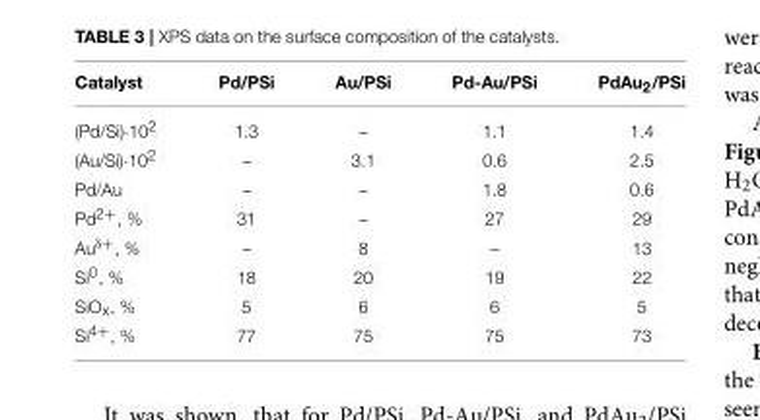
<table><thead><tr><td>Catalyst</td><td>Pd/PSi</td><td>Au/PSi</td><td>Pd-Au/PSi</td><td>PdAu<sub>2</sub>/PSi</td></tr></thead><tbody><tr><td>(Pd/Si)·10<sup>2</sup></td><td>1.3</td><td>–</td><td>1.1</td><td>1.4</td></tr><tr><td>(Au/Si)·10<sup>2</sup></td><td>–</td><td>3.1</td><td>0.6</td><td>2.5</td></tr><tr><td>Pd/Au</td><td>–</td><td>–</td><td>1.8</td><td>0.6</td></tr><tr><td>Pd<sup>2+</sup>, %</td><td>31</td><td>–</td><td>27</td><td>29</td></tr><tr><td>Au<sup>δ+</sup>, %</td><td>–</td><td>8</td><td>–</td><td>13</td></tr><tr><td>Si<sup>0</sup>, %</td><td>18</td><td>20</td><td>19</td><td>22</td></tr><tr><td>SiO<sub>x</sub>, %</td><td>5</td><td>6</td><td>6</td><td>5</td></tr><tr><td>Si<sup>4+</sup>, %</td><td>77</td><td>75</td><td>75</td><td>73</td></tr></tbody></table>